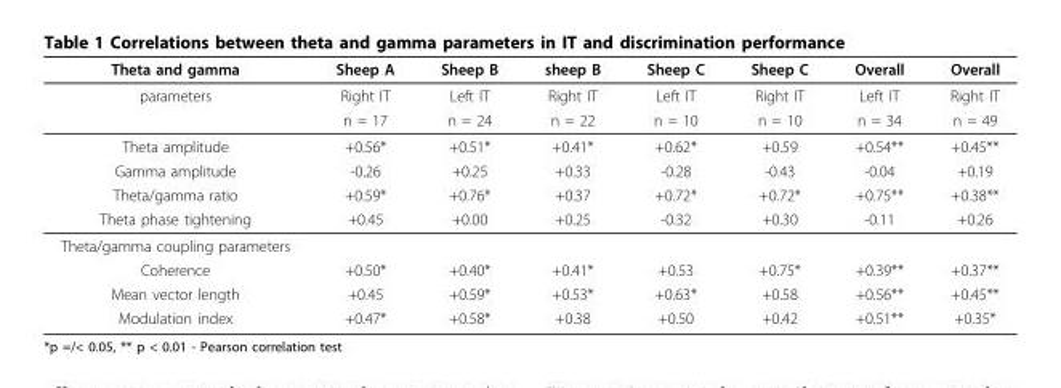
<table><thead><tr><td>Theta and gamma</td><td>Sheep A</td><td>Sheep B</td><td>sheep B</td><td>Sheep C</td><td>Sheep C</td><td>Overall</td><td>Overall</td></tr></thead><tbody><tr><td rowspan="2">parameters</td><td>Right IT</td><td>Left IT</td><td>Right IT</td><td>Left IT</td><td>Right IT</td><td>Left IT</td><td>Right IT</td></tr><tr><td>n = 17</td><td>n = 24</td><td>n = 22</td><td>n = 10</td><td>n = 10</td><td>n = 34</td><td>n = 49</td></tr><tr><td>Theta amplitude</td><td>+0.56*</td><td>+0.51*</td><td>+0.41*</td><td>+0.62*</td><td>+0.59</td><td>+0.54**</td><td>+0.45**</td></tr><tr><td>Gamma amplitude</td><td>-0.26</td><td>+0.25</td><td>+0.33</td><td>-0.28</td><td>-0.43</td><td>-0.04</td><td>+0.19</td></tr><tr><td>Theta/gamma ratio</td><td>+0.59*</td><td>+0.76*</td><td>+0.37</td><td>+0.72*</td><td>+0.72*</td><td>+0.75**</td><td>+0.38**</td></tr><tr><td>Theta phase tightening</td><td>+0.45</td><td>+0.00</td><td>+0.25</td><td>-0.32</td><td>+0.30</td><td>-0.11</td><td>+0.26</td></tr><tr><td colspan="8">Theta/gamma coupling parameters</td></tr><tr><td>Coherence</td><td>+0.50*</td><td>+0.40*</td><td>+0.41*</td><td>+0.53</td><td>+0.75*</td><td>+0.39**</td><td>+0.37**</td></tr><tr><td>Mean vector length</td><td>+0.45</td><td>+0.59*</td><td>+0.53*</td><td>+0.63*</td><td>+0.58</td><td>+0.56**</td><td>+0.45**</td></tr><tr><td>Modulation index</td><td>+0.47*</td><td>+0.58*</td><td>+0.38</td><td>+0.50</td><td>+0.42</td><td>+0.51**</td><td>+0.35*</td></tr></tbody></table>